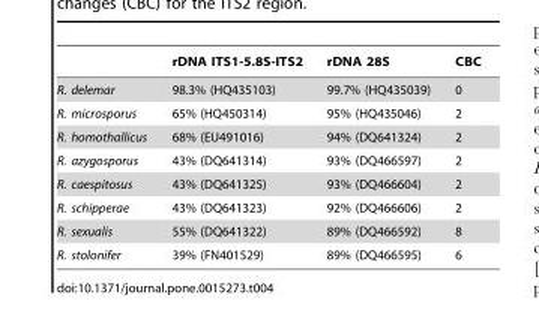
<table><thead><tr><td></td><td>rDNA ITS1-5.8S-ITS2</td><td>rDNA 28S</td><td>CBC</td></tr></thead><tbody><tr><td>R. delemar</td><td>98.3% (HQ435103)</td><td>99.7% (HQ435039)</td><td>0</td></tr><tr><td>R. microsporus</td><td>65% (HQ450314)</td><td>95% (HQ435046)</td><td>2</td></tr><tr><td>R. homothallicus</td><td>68% (EU491016)</td><td>94% (DQ641324)</td><td>2</td></tr><tr><td>R. azygosporus</td><td>43% (DQ641314)</td><td>93% (DQ466597)</td><td>2</td></tr><tr><td>R. caespitosus</td><td>43% (DQ641325)</td><td>93% (DQ466604)</td><td>2</td></tr><tr><td>R. schipperae</td><td>43% (DQ641323)</td><td>92% (DQ466606)</td><td>2</td></tr><tr><td>R. sexualis</td><td>55% (DQ641322)</td><td>89% (DQ466592)</td><td>8</td></tr><tr><td>R. stolonifer</td><td>39% (FN401529)</td><td>89% (DQ466595)</td><td>6</td></tr></tbody></table>